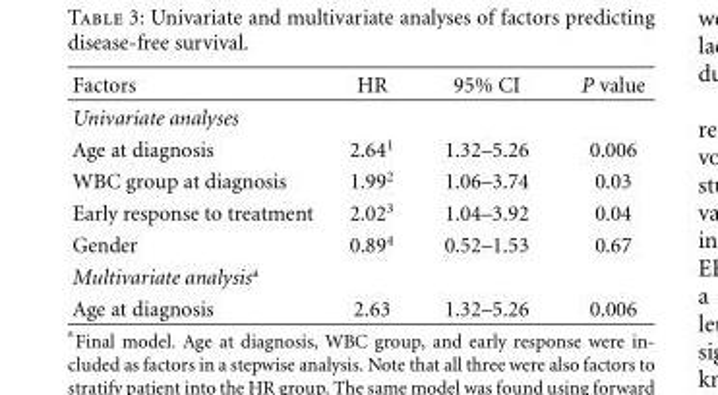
<table><thead><tr><td>Factors</td><td>HR</td><td>95% CI</td><td>P value</td></tr></thead><tbody><tr><td colspan="4">Univariate analyses</td></tr><tr><td>Age at diagnosis</td><td>2.64<sup>1</sup></td><td>1.32–5.26</td><td>0.006</td></tr><tr><td>WBC group at diagnosis</td><td>1.99<sup>2</sup></td><td>1.06–3.74</td><td>0.03</td></tr><tr><td>Early response to treatment</td><td>2.02<sup>3</sup></td><td>1.04–3.92</td><td>0.04</td></tr><tr><td>Gender</td><td>0.89<sup>4</sup></td><td>0.52–1.53</td><td>0.67</td></tr><tr><td colspan="4">Multivariate analysis<sup>a</sup></td></tr><tr><td>Age at diagnosis</td><td>2.63</td><td>1.32–5.26</td><td>0.006</td></tr></tbody></table>